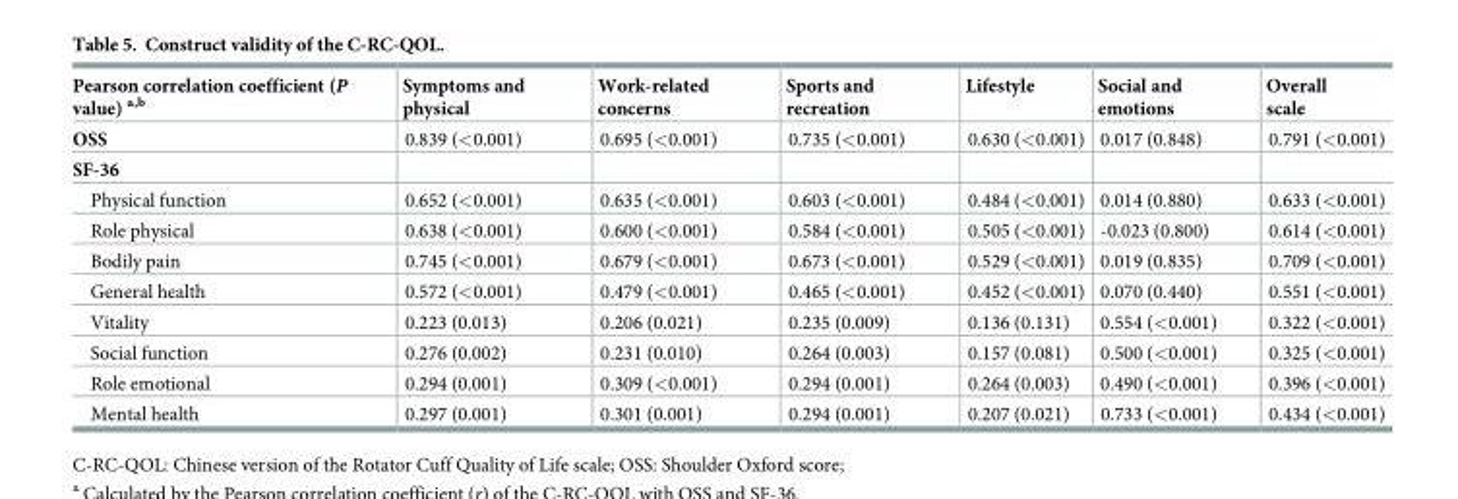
<table><thead><tr><td>Pearson correlation coefficient (P value) <sup>a,b</sup></td><td>Symptoms and physical</td><td>Work-related concerns</td><td>Sports and recreation</td><td>Lifestyle</td><td>Social and emotions</td><td>Overall scale</td></tr></thead><tbody><tr><td>OSS</td><td>0.839 (&lt;0.001)</td><td>0.695 (&lt;0.001)</td><td>0.735 (&lt;0.001)</td><td>0.630 (&lt;0.001)</td><td>0.017 (0.848)</td><td>0.791 (&lt;0.001)</td></tr><tr><td colspan="7">SF-36</td></tr><tr><td>Physical function</td><td>0.652 (&lt;0.001)</td><td>0.635 (&lt;0.001)</td><td>0.603 (&lt;0.001)</td><td>0.484 (&lt;0.001)</td><td>0.014 (0.880)</td><td>0.633 (&lt;0.001)</td></tr><tr><td>Role physical</td><td>0.638 (&lt;0.001)</td><td>0.600 (&lt;0.001)</td><td>0.584 (&lt;0.001)</td><td>0.505 (&lt;0.001)</td><td>-0.023 (0.800)</td><td>0.614 (&lt;0.001)</td></tr><tr><td>Bodily pain</td><td>0.745 (&lt;0.001)</td><td>0.679 (&lt;0.001)</td><td>0.673 (&lt;0.001)</td><td>0.529 (&lt;0.001)</td><td>0.019 (0.835)</td><td>0.709 (&lt;0.001)</td></tr><tr><td>General health</td><td>0.572 (&lt;0.001)</td><td>0.479 (&lt;0.001)</td><td>0.465 (&lt;0.001)</td><td>0.452 (&lt;0.001)</td><td>0.070 (0.440)</td><td>0.551 (&lt;0.001)</td></tr><tr><td>Vitality</td><td>0.223 (0.013)</td><td>0.206 (0.021)</td><td>0.235 (0.009)</td><td>0.136 (0.131)</td><td>0.554 (&lt;0.001)</td><td>0.322 (&lt;0.001)</td></tr><tr><td>Social function</td><td>0.276 (0.002)</td><td>0.231 (0.010)</td><td>0.264 (0.003)</td><td>0.157 (0.081)</td><td>0.500 (&lt;0.001)</td><td>0.325 (&lt;0.001)</td></tr><tr><td>Role emotional</td><td>0.294 (0.001)</td><td>0.309 (&lt;0.001)</td><td>0.294 (0.001)</td><td>0.264 (0.003)</td><td>0.490 (&lt;0.001)</td><td>0.396 (&lt;0.001)</td></tr><tr><td>Mental health</td><td>0.297 (0.001)</td><td>0.301 (0.001)</td><td>0.294 (0.001)</td><td>0.207 (0.021)</td><td>0.733 (&lt;0.001)</td><td>0.434 (&lt;0.001)</td></tr></tbody></table>